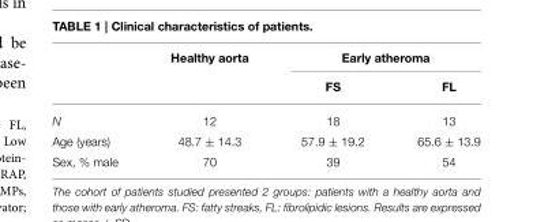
<table><thead><tr><td rowspan="2"></td><td rowspan="2">Healthy aorta</td><td colspan="2">Early atheroma</td></tr><tr><td>FS</td><td>FL</td></tr></thead><tbody><tr><td>N</td><td>12</td><td>18</td><td>13</td></tr><tr><td>Age (years)</td><td>48.7 ± 14.3</td><td>57.9 ± 19.2</td><td>65.6 ± 13.9</td></tr><tr><td>Sex, % male</td><td>70</td><td>39</td><td>54</td></tr></tbody></table>